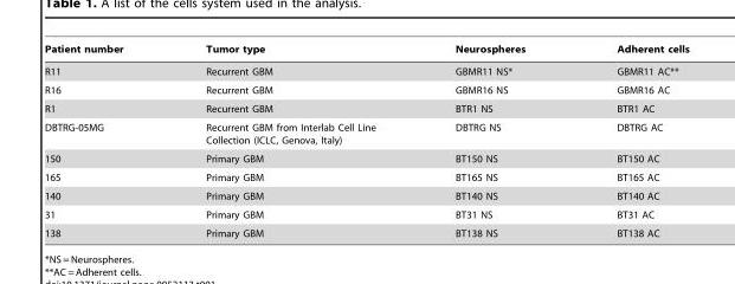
<table><thead><tr><td>Patient number</td><td>Tumor type</td><td>Neurospheres</td><td>Adherent cells</td></tr></thead><tbody><tr><td>R11</td><td>Recurrent GBM</td><td>GBMR11 NS*</td><td>GBMR11 AC**</td></tr><tr><td>R16</td><td>Recurrent GBM</td><td>GBMR16 NS</td><td>GBMR16 AC</td></tr><tr><td>R1</td><td>Recurrent GBM</td><td>BTR1 NS</td><td>BTR1 AC</td></tr><tr><td>DBTRG-05MG</td><td>Recurrent GBM from Interlab Cell Line Collection (ICLC, Genova, Italy)</td><td>DBTRG NS</td><td>DBTRG AC</td></tr><tr><td>150</td><td>Primary GBM</td><td>BT150 NS</td><td>BT150 AC</td></tr><tr><td>165</td><td>Primary GBM</td><td>BT165 NS</td><td>BT165 AC</td></tr><tr><td>140</td><td>Primary GBM</td><td>BT140 NS</td><td>BT140 AC</td></tr><tr><td>31</td><td>Primary GBM</td><td>BT31 NS</td><td>BT31 AC</td></tr><tr><td>138</td><td>Primary GBM</td><td>BT138 NS</td><td>BT138 AC</td></tr></tbody></table>